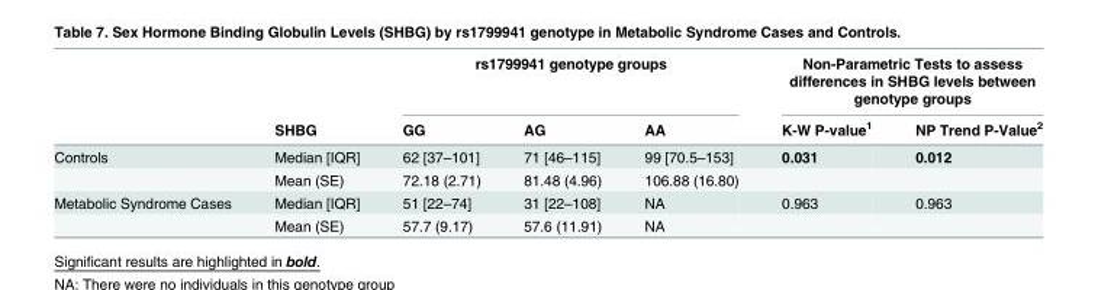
<table><thead><tr><td rowspan="2"></td><td rowspan="2">SHBG</td><td colspan="3">rs1799941 genotype groups</td><td colspan="2">Non-Parametric Tests to assess differences in SHBG levels between genotype groups</td></tr><tr><td>GG</td><td>AG</td><td>AA</td><td>K-W P-value<sup>1</sup></td><td>NP Trend P-Value<sup>2</sup></td></tr></thead><tbody><tr><td rowspan="2">Controls</td><td>Median [IQR]</td><td>62 [37–101]</td><td>71 [46–115]</td><td>99 [70.5–153]</td><td>0.031</td><td>0.012</td></tr><tr><td>Mean (SE)</td><td>72.18 (2.71)</td><td>81.48 (4.96)</td><td>106.88 (16.80)</td><td></td><td></td></tr><tr><td rowspan="2">Metabolic Syndrome Cases</td><td>Median [IQR]</td><td>51 [22–74]</td><td>31 [22–108]</td><td>NA</td><td>0.963</td><td>0.963</td></tr><tr><td>Mean (SE)</td><td>57.7 (9.17)</td><td>57.6 (11.91)</td><td>NA</td><td></td><td></td></tr></tbody></table>